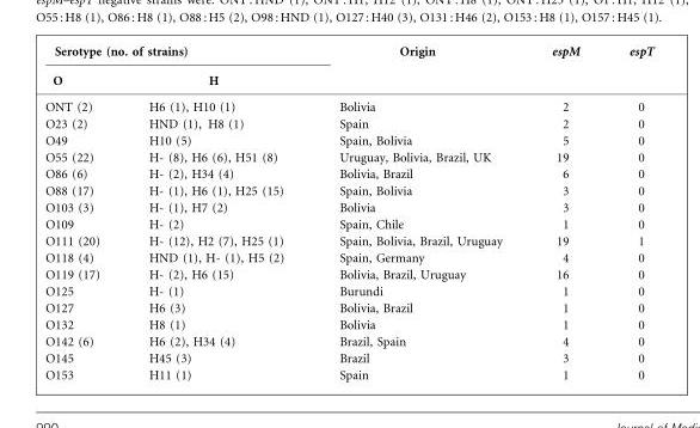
<table><thead><tr><td colspan="2">Serotype (no. of strains)</td><td rowspan="2">Origin</td><td rowspan="2">espM</td><td rowspan="2">espT</td></tr><tr><td>O</td><td>H</td></tr></thead><tbody><tr><td>ONT (2)</td><td>H6 (1), H10 (1)</td><td>Bolivia</td><td>2</td><td>0</td></tr><tr><td>O23 (2)</td><td>HND (1), H8 (1)</td><td>Spain</td><td>2</td><td>0</td></tr><tr><td>O49</td><td>H10 (5)</td><td>Spain, Bolivia</td><td>5</td><td>0</td></tr><tr><td>O55 (22)</td><td>H- (8), H6 (6), H51 (8)</td><td>Uruguay, Bolivia, Brazil, UK</td><td>19</td><td>0</td></tr><tr><td>O86 (6)</td><td>H- (2), H34 (4)</td><td>Bolivia, Brazil</td><td>6</td><td>0</td></tr><tr><td>O88 (17)</td><td>H- (1), H6 (1), H25 (15)</td><td>Spain, Bolivia</td><td>3</td><td>0</td></tr><tr><td>O103 (3)</td><td>H- (1), H7 (2)</td><td>Bolivia</td><td>3</td><td>0</td></tr><tr><td>O109</td><td>H- (2)</td><td>Spain, Chile</td><td>1</td><td>0</td></tr><tr><td>O111 (20)</td><td>H- (12), H2 (7), H25 (1)</td><td>Spain, Bolivia, Brazil, Uruguay</td><td>19</td><td>1</td></tr><tr><td>O118 (4)</td><td>HND (1), H- (1), H5 (2)</td><td>Spain, Germany</td><td>4</td><td>0</td></tr><tr><td>O119 (17)</td><td>H- (2), H6 (15)</td><td>Bolivia, Brazil, Uruguay</td><td>16</td><td>0</td></tr><tr><td>O125</td><td>H- (1)</td><td>Burundi</td><td>1</td><td>0</td></tr><tr><td>O127</td><td>H6 (3)</td><td>Bolivia, Brazil</td><td>1</td><td>0</td></tr><tr><td>O132</td><td>H8 (1)</td><td>Bolivia</td><td>1</td><td>0</td></tr><tr><td>O142 (6)</td><td>H6 (2), H34 (4)</td><td>Brazil, Spain</td><td>4</td><td>0</td></tr><tr><td>O145</td><td>H45 (3)</td><td>Brazil</td><td>3</td><td>0</td></tr><tr><td>O153</td><td>H11 (1)</td><td>Spain</td><td>1</td><td>0</td></tr></tbody></table>